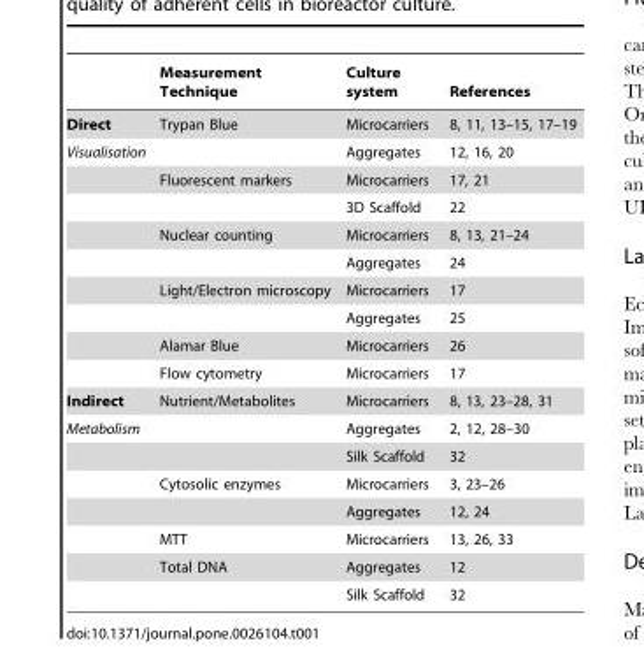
<table><thead><tr><td></td><td>Measurement Technique</td><td>Culture system</td><td>References</td></tr></thead><tbody><tr><td>Direct</td><td>Trypan Blue</td><td>Microcarriers</td><td>8, 11, 13–15, 17–19</td></tr><tr><td rowspan="9">Visualisation</td><td></td><td>Aggregates</td><td>12, 16, 20</td></tr><tr><td>Fluorescent markers</td><td>Microcarriers</td><td>17, 21</td></tr><tr><td></td><td>3D Scaffold</td><td>22</td></tr><tr><td>Nuclear counting</td><td>Microcarriers</td><td>8, 13, 21–24</td></tr><tr><td></td><td>Aggregates</td><td>24</td></tr><tr><td>Light/Electron microscopy</td><td>Microcarriers</td><td>17</td></tr><tr><td></td><td>Aggregates</td><td>25</td></tr><tr><td>Alamar Blue</td><td>Microcarriers</td><td>26</td></tr><tr><td>Flow cytometry</td><td>Microcarriers</td><td>17</td></tr><tr><td>Indirect</td><td>Nutrient/Metabolites</td><td>Microcarriers</td><td>8, 13, 23–28, 31</td></tr><tr><td rowspan="7">Metabolism</td><td></td><td>Aggregates</td><td>2, 12, 28–30</td></tr><tr><td></td><td>Silk Scaffold</td><td>32</td></tr><tr><td>Cytosolic enzymes</td><td>Microcarriers</td><td>3, 23–26</td></tr><tr><td></td><td>Aggregates</td><td>12, 24</td></tr><tr><td>MTT</td><td>Microcarriers</td><td>13, 26, 33</td></tr><tr><td>Total DNA</td><td>Aggregates</td><td>12</td></tr><tr><td></td><td>Silk Scaffold</td><td>32</td></tr></tbody></table>